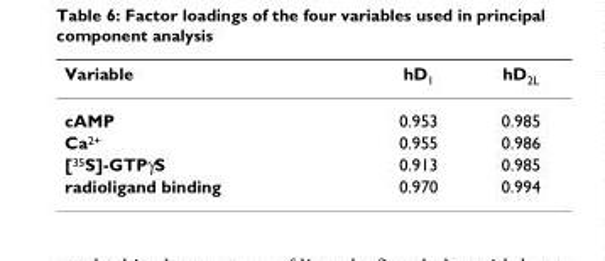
<table><thead><tr><td>Variable</td><td>hD<sub>1</sub></td><td>hD<sub>2L</sub></td></tr></thead><tbody><tr><td>cAMP</td><td>0.953</td><td>0.985</td></tr><tr><td>Ca<sup>2+</sup></td><td>0.955</td><td>0.986</td></tr><tr><td>[<sup>35</sup>S]-GTPγS</td><td>0.913</td><td>0.985</td></tr><tr><td>radioligand binding</td><td>0.970</td><td>0.994</td></tr></tbody></table>